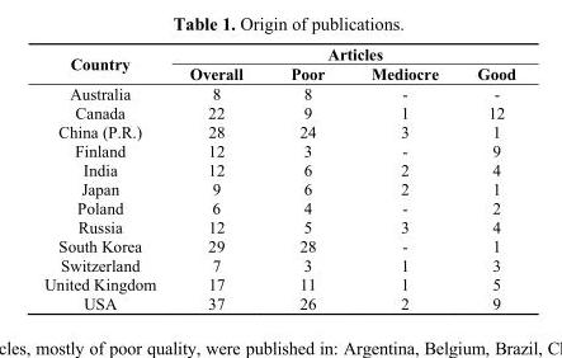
<table><thead><tr><td rowspan="2">Country</td><td colspan="4">Articles</td></tr><tr><td>Overall</td><td>Poor</td><td>Mediocre</td><td>Good</td></tr></thead><tbody><tr><td>Australia</td><td>8</td><td>8</td><td>-</td><td>-</td></tr><tr><td>Canada</td><td>22</td><td>9</td><td>1</td><td>12</td></tr><tr><td>China (P.R.)</td><td>28</td><td>24</td><td>3</td><td>1</td></tr><tr><td>Finland</td><td>12</td><td>3</td><td>-</td><td>9</td></tr><tr><td>India</td><td>12</td><td>6</td><td>2</td><td>4</td></tr><tr><td>Japan</td><td>9</td><td>6</td><td>2</td><td>1</td></tr><tr><td>Poland</td><td>6</td><td>4</td><td>-</td><td>2</td></tr><tr><td>Russia</td><td>12</td><td>5</td><td>3</td><td>4</td></tr><tr><td>South Korea</td><td>29</td><td>28</td><td>-</td><td>1</td></tr><tr><td>Switzerland</td><td>7</td><td>3</td><td>1</td><td>3</td></tr><tr><td>United Kingdom</td><td>17</td><td>11</td><td>1</td><td>5</td></tr><tr><td>USA</td><td>37</td><td>26</td><td>2</td><td>9</td></tr></tbody></table>